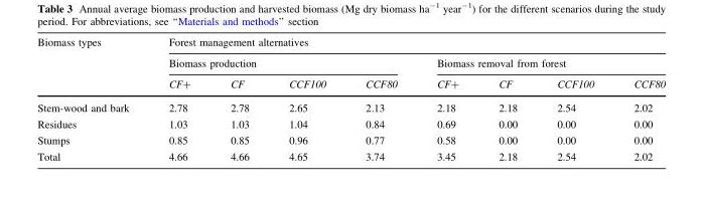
<table><thead><tr><td rowspan="3">Biomass types</td><td colspan="8">Forest management alternatives</td></tr><tr><td colspan="4">Biomass production</td><td colspan="4">Biomass removal from forest</td></tr><tr><td>CF+</td><td>CF</td><td>CCF100</td><td>CCF80</td><td>CF+</td><td>CF</td><td>CCF100</td><td>CCF80</td></tr></thead><tbody><tr><td>Stem-wood and bark</td><td>2.78</td><td>2.78</td><td>2.65</td><td>2.13</td><td>2.18</td><td>2.18</td><td>2.54</td><td>2.02</td></tr><tr><td>Residues</td><td>1.03</td><td>1.03</td><td>1.04</td><td>0.84</td><td>0.69</td><td>0.00</td><td>0.00</td><td>0.00</td></tr><tr><td>Stumps</td><td>0.85</td><td>0.85</td><td>0.96</td><td>0.77</td><td>0.58</td><td>0.00</td><td>0.00</td><td>0.00</td></tr><tr><td>Total</td><td>4.66</td><td>4.66</td><td>4.65</td><td>3.74</td><td>3.45</td><td>2.18</td><td>2.54</td><td>2.02</td></tr></tbody></table>